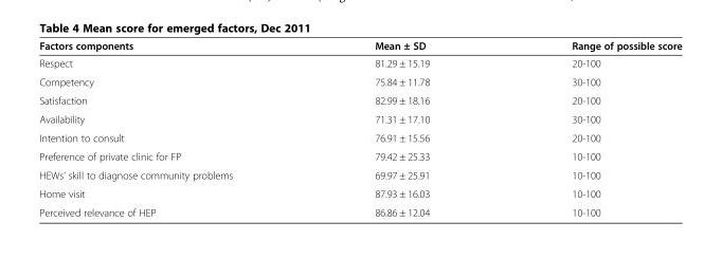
<table><thead><tr><td>Factors components</td><td>Mean ± SD</td><td>Range of possible score</td></tr></thead><tbody><tr><td>Respect</td><td>81.29 ± 15.19</td><td>20-100</td></tr><tr><td>Competency</td><td>75.84 ± 11.78</td><td>30-100</td></tr><tr><td>Satisfaction</td><td>82.99 ± 18.16</td><td>20-100</td></tr><tr><td>Availability</td><td>71.31 ± 17.10</td><td>30-100</td></tr><tr><td>Intention to consult</td><td>76.91 ± 15.56</td><td>20-100</td></tr><tr><td>Preference of private clinic for FP</td><td>79.42 ± 25.33</td><td>10-100</td></tr><tr><td>HEWs’ skill to diagnose community problems</td><td>69.97 ± 25.91</td><td>10-100</td></tr><tr><td>Home visit</td><td>87.93 ± 16.03</td><td>10-100</td></tr><tr><td>Perceived relevance of HEP</td><td>86.86 ± 12.04</td><td>10-100</td></tr></tbody></table>